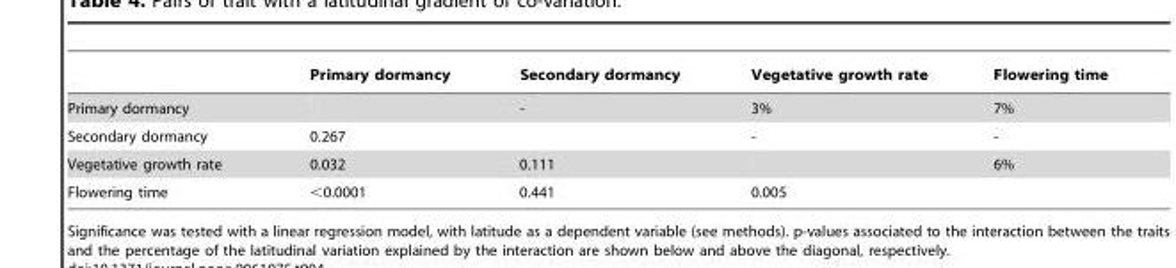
<table><thead><tr><td></td><td>Primary dormancy</td><td>Secondary dormancy</td><td>Vegetative growth rate</td><td>Flowering time</td></tr></thead><tbody><tr><td>Primary dormancy</td><td></td><td>-</td><td>3%</td><td>7%</td></tr><tr><td>Secondary dormancy</td><td>0.267</td><td></td><td>-</td><td>-</td></tr><tr><td>Vegetative growth rate</td><td>0.032</td><td>0.111</td><td></td><td>6%</td></tr><tr><td>Flowering time</td><td>&lt;0.0001</td><td>0.441</td><td>0.005</td><td></td></tr></tbody></table>